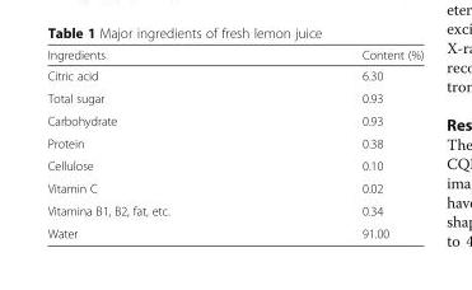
<table><thead><tr><td>Ingredients</td><td>Content (%)</td></tr></thead><tbody><tr><td>Citric acid</td><td>6.30</td></tr><tr><td>Total sugar</td><td>0.93</td></tr><tr><td>Carbohydrate</td><td>0.93</td></tr><tr><td>Protein</td><td>0.38</td></tr><tr><td>Cellulose</td><td>0.10</td></tr><tr><td>Vitamin C</td><td>0.02</td></tr><tr><td>Vitamina B1, B2, fat, etc.</td><td>0.34</td></tr><tr><td>Water</td><td>91.00</td></tr></tbody></table>